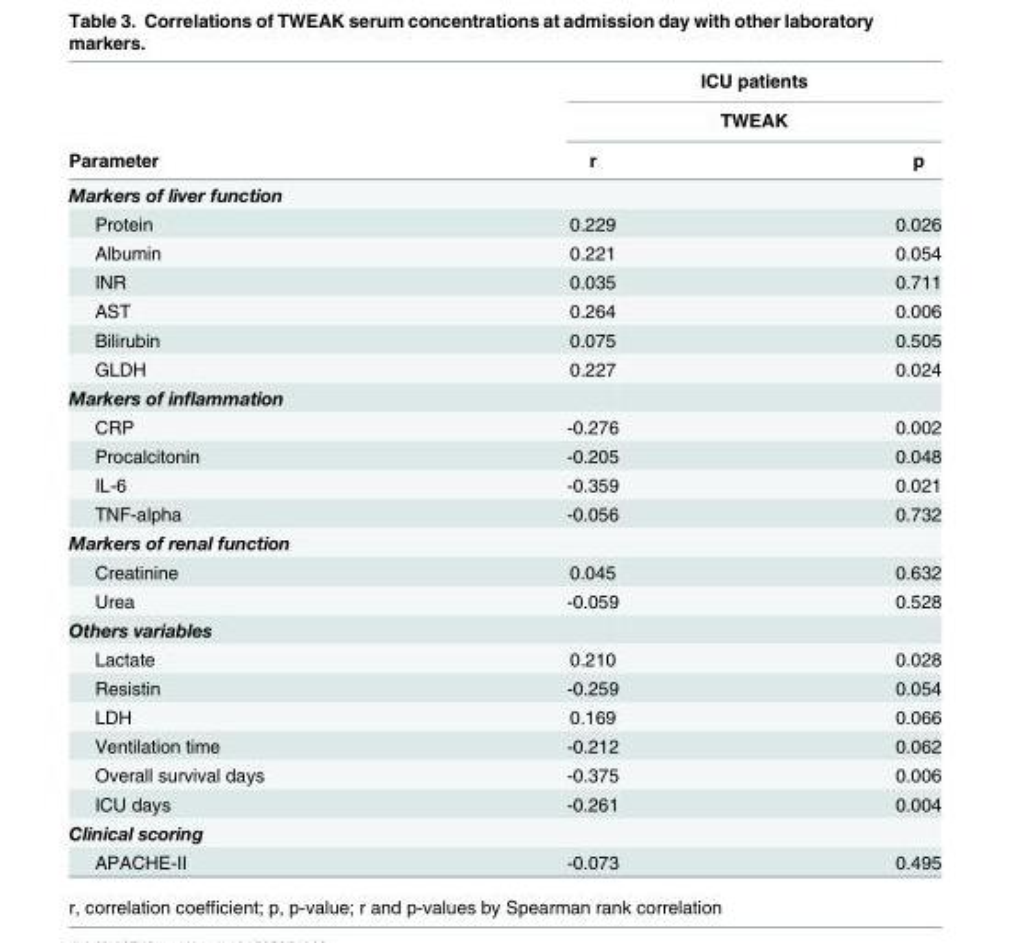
<table><thead><tr><td rowspan="3">Parameter</td><td rowspan="2" colspan="2">ICU patients TWEAK</td></tr><tr></tr><tr><td>r</td><td>p</td></tr></thead><tbody><tr><td colspan="3">Markers of liver function</td></tr><tr><td>Protein</td><td>0.229</td><td>0.026</td></tr><tr><td>Albumin</td><td>0.221</td><td>0.054</td></tr><tr><td>INR</td><td>0.035</td><td>0.711</td></tr><tr><td>AST</td><td>0.264</td><td>0.006</td></tr><tr><td>Bilirubin</td><td>0.075</td><td>0.505</td></tr><tr><td>GLDH</td><td>0.227</td><td>0.024</td></tr><tr><td colspan="3">Markers of inflammation</td></tr><tr><td>CRP</td><td>-0.276</td><td>0.002</td></tr><tr><td>Procalcitonin</td><td>-0.205</td><td>0.048</td></tr><tr><td>IL-6</td><td>-0.359</td><td>0.021</td></tr><tr><td>TNF-alpha</td><td>-0.056</td><td>0.732</td></tr><tr><td colspan="3">Markers of renal function</td></tr><tr><td>Creatinine</td><td>0.045</td><td>0.632</td></tr><tr><td>Urea</td><td>-0.059</td><td>0.528</td></tr><tr><td colspan="3">Others variables</td></tr><tr><td>Lactate</td><td>0.210</td><td>0.028</td></tr><tr><td>Resistin</td><td>-0.259</td><td>0.054</td></tr><tr><td>LDH</td><td>0.169</td><td>0.066</td></tr><tr><td>Ventilation time</td><td>-0.212</td><td>0.062</td></tr><tr><td>Overall survival days</td><td>-0.375</td><td>0.006</td></tr><tr><td>ICU days</td><td>-0.261</td><td>0.004</td></tr><tr><td colspan="3">Clinical scoring</td></tr><tr><td>APACHE-II</td><td>-0.073</td><td>0.495</td></tr></tbody></table>